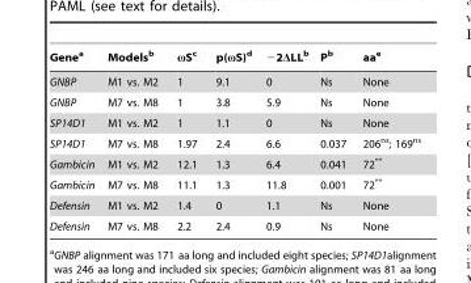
<table><thead><tr><td>Gene<sup>a</sup></td><td>Models<sup>b</sup></td><td>ωS<sup>c</sup></td><td>p(ωS)<sup>d</sup></td><td>−2ΔLL<sup>b</sup></td><td>P<sup>b</sup></td><td>aa<sup>e</sup></td></tr></thead><tbody><tr><td>GNBP</td><td>M1 vs. M2</td><td>1</td><td>9.1</td><td>0</td><td>Ns</td><td>None</td></tr><tr><td>GNBP</td><td>M7 vs. M8</td><td>1</td><td>3.8</td><td>5.9</td><td>Ns</td><td>None</td></tr><tr><td>SP14D1</td><td>M1 vs. M2</td><td>1</td><td>1.1</td><td>0</td><td>Ns</td><td>None</td></tr><tr><td>SP14D1</td><td>M7 vs. M8</td><td>1.97</td><td>2.4</td><td>6.6</td><td>0.037</td><td>206<sup>ns</sup>; 169<sup>ns</sup></td></tr><tr><td>Gambicin</td><td>M1 vs. M2</td><td>12.1</td><td>1.3</td><td>6.4</td><td>0.041</td><td>72**</td></tr><tr><td>Gambicin</td><td>M7 vs. M8</td><td>11.1</td><td>1.3</td><td>11.8</td><td>0.001</td><td>72**</td></tr><tr><td>Defensin</td><td>M1 vs. M2</td><td>1.4</td><td>0</td><td>1.1</td><td>Ns</td><td>None</td></tr><tr><td>Defensin</td><td>M7 vs. M8</td><td>2.2</td><td>2.4</td><td>0.9</td><td>Ns</td><td>None</td></tr></tbody></table>